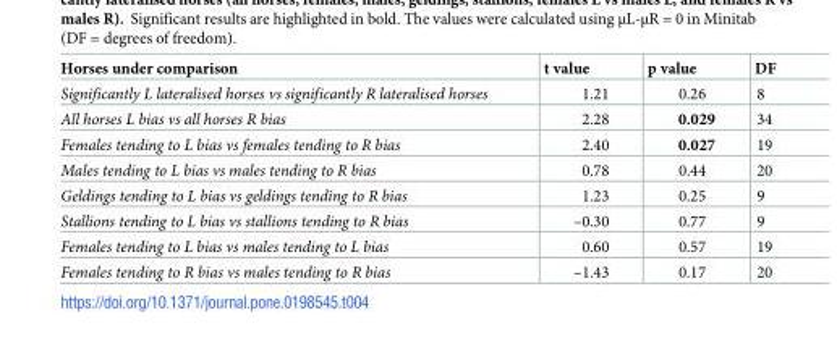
<table><thead><tr><td>Horses under comparison</td><td>t value</td><td>p value</td><td>DF</td></tr></thead><tbody><tr><td>Significantly L lateralised horses vs significantly R lateralised horses</td><td>1.21</td><td>0.26</td><td>8</td></tr><tr><td>All horses L bias vs all horses R bias</td><td>2.28</td><td>0.029</td><td>34</td></tr><tr><td>Females tending to L bias vs females tending to R bias</td><td>2.40</td><td>0.027</td><td>19</td></tr><tr><td>Males tending to L bias vs males tending to R bias</td><td>0.78</td><td>0.44</td><td>20</td></tr><tr><td>Geldings tending to L bias vs geldings tending to R bias</td><td>1.23</td><td>0.25</td><td>9</td></tr><tr><td>Stallions tending to L bias vs stallions tending to R bias</td><td>–0.30</td><td>0.77</td><td>9</td></tr><tr><td>Females tending to L bias vs males tending to L bias</td><td>0.60</td><td>0.57</td><td>19</td></tr><tr><td>Females tending to R bias vs males tending to R bias</td><td>–1.43</td><td>0.17</td><td>20</td></tr></tbody></table>